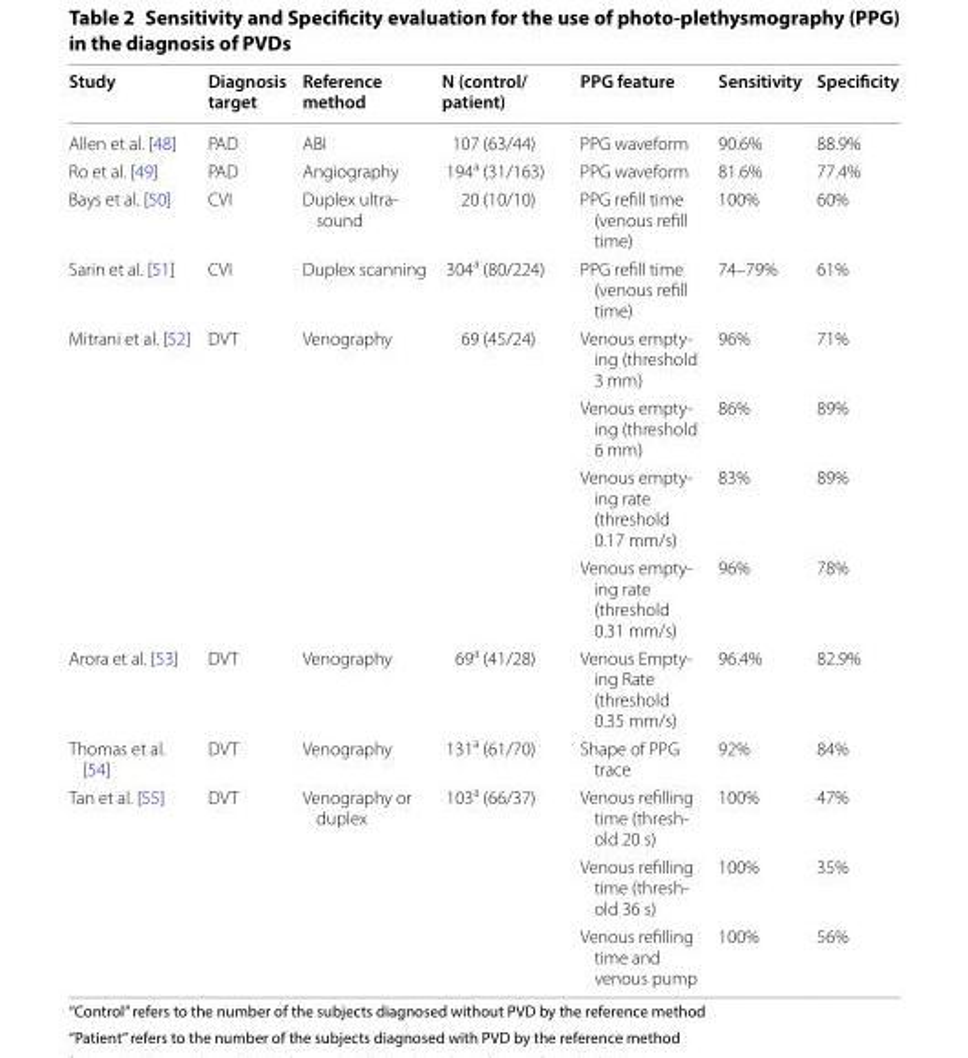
<table><thead><tr><td>Study</td><td>Diagnosis target</td><td>Reference method</td><td>N (control/ patient)</td><td>PPG feature</td><td>Sensitivity</td><td>Specificity</td></tr></thead><tbody><tr><td>Allen et al. [48]</td><td>PAD</td><td>ABI</td><td>107 (63/44)</td><td>PPG waveform</td><td>90.6%</td><td>88.9%</td></tr><tr><td>Ro et al. [49]</td><td>PAD</td><td>Angiography</td><td>194<sup>a</sup> (31/163)</td><td>PPG waveform</td><td>81.6%</td><td>77.4%</td></tr><tr><td>Bays et al. [50]</td><td>CVI</td><td>Duplex ultra- sound</td><td>20 (10/10)</td><td>PPG refill time (venous refill time)</td><td>100%</td><td>60%</td></tr><tr><td>Sarin et al. [51]</td><td>CVI</td><td>Duplex scanning</td><td>304<sup>a</sup> (80/224)</td><td>PPG refill time (venous refill time)</td><td>74–79%</td><td>61%</td></tr><tr><td rowspan="4">Mitrani et al. [52]</td><td rowspan="4">DVT</td><td rowspan="4">Venography</td><td rowspan="4">69 (45/24)</td><td>Venous empty- ing (threshold 3 mm)</td><td>96%</td><td>71%</td></tr><tr><td>Venous empty- ing (threshold 6 mm)</td><td>86%</td><td>89%</td></tr><tr><td>Venous empty- ing rate (threshold 0.17 mm/s)</td><td>83%</td><td>89%</td></tr><tr><td>Venous empty- ing rate (threshold 0.31 mm/s)</td><td>96%</td><td>78%</td></tr><tr><td>Arora et al. [53]</td><td>DVT</td><td>Venography</td><td>69<sup>a</sup> (41/28)</td><td>Venous Empty- ing Rate (threshold 0.35 mm/s)</td><td>96.4%</td><td>82.9%</td></tr><tr><td>Thomas et al. [54]</td><td>DVT</td><td>Venography</td><td>131<sup>a</sup> (61/70)</td><td>Shape of PPG trace</td><td>92%</td><td>84%</td></tr><tr><td rowspan="3">Tan et al. [55]</td><td rowspan="3">DVT</td><td rowspan="3">Venography or duplex</td><td rowspan="3">103<sup>a</sup> (66/37)</td><td>Venous refilling time (thresh- old 20 s)</td><td>100%</td><td>47%</td></tr><tr><td>Venous refilling time (thresh- old 36 s)</td><td>100%</td><td>35%</td></tr><tr><td>Venous refilling time and venous pump</td><td>100%</td><td>56%</td></tr></tbody></table>